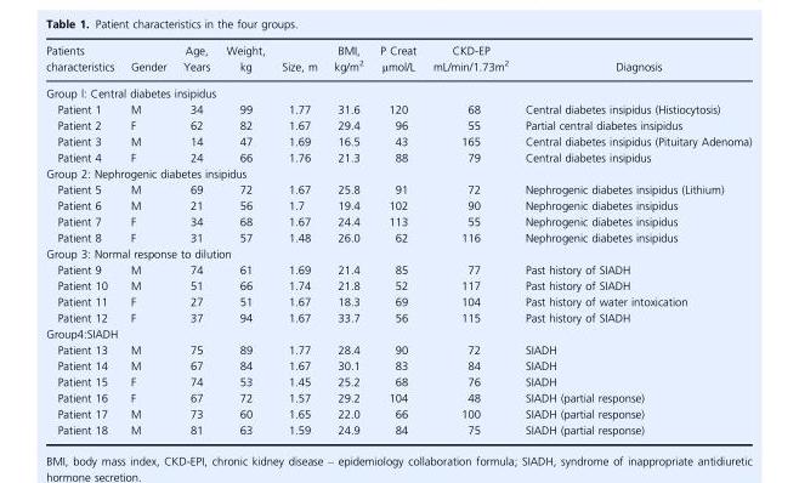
<table><thead><tr><td>Patients characteristics</td><td>Gender</td><td>Age, Years</td><td>Weight, kg</td><td>Size, m</td><td>BMI, kg/m<sup>2</sup></td><td>P Creat μmol/L</td><td>CKD-EP mL/min/1.73m<sup>2</sup></td><td>Diagnosis</td></tr></thead><tbody><tr><td colspan="9">Group l: Central diabetes insipidus</td></tr><tr><td>Patient 1</td><td>M</td><td>34</td><td>99</td><td>1.77</td><td>31.6</td><td>120</td><td>68</td><td>Central diabetes insipidus (Histiocytosis)</td></tr><tr><td>Patient 2</td><td>F</td><td>62</td><td>82</td><td>1.67</td><td>29.4</td><td>96</td><td>55</td><td>Partial central diabetes insipidus</td></tr><tr><td>Patient 3</td><td>M</td><td>14</td><td>47</td><td>1.69</td><td>16.5</td><td>43</td><td>165</td><td>Central diabetes insipidus (Pituitary Adenoma)</td></tr><tr><td>Patient 4</td><td>F</td><td>24</td><td>66</td><td>1.76</td><td>21.3</td><td>88</td><td>79</td><td>Central diabetes insipidus</td></tr><tr><td colspan="9">Group 2: Nephrogenic diabetes insipidus</td></tr><tr><td>Patient 5</td><td>M</td><td>69</td><td>72</td><td>1.67</td><td>25.8</td><td>91</td><td>72</td><td>Nephrogenic diabetes insipidus (Lithium)</td></tr><tr><td>Patient 6</td><td>M</td><td>21</td><td>56</td><td>1.7</td><td>19.4</td><td>102</td><td>90</td><td>Nephrogenic diabetes insipidus</td></tr><tr><td>Patient 7</td><td>F</td><td>34</td><td>68</td><td>1.67</td><td>24.4</td><td>113</td><td>55</td><td>Nephrogenic diabetes insipidus</td></tr><tr><td>Patient 8</td><td>F</td><td>31</td><td>57</td><td>1.48</td><td>26.0</td><td>62</td><td>116</td><td>Nephrogenic diabetes insipidus</td></tr><tr><td colspan="9">Group 3: Normal response to dilution</td></tr><tr><td>Patient 9</td><td>M</td><td>74</td><td>61</td><td>1.69</td><td>21.4</td><td>85</td><td>77</td><td>Past history of SIADH</td></tr><tr><td>Patient 10</td><td>M</td><td>51</td><td>66</td><td>1.74</td><td>21.8</td><td>52</td><td>117</td><td>Past history of SIADH</td></tr><tr><td>Patient 11</td><td>F</td><td>27</td><td>51</td><td>1.67</td><td>18.3</td><td>69</td><td>104</td><td>Past history of water intoxication</td></tr><tr><td>Patient 12</td><td>F</td><td>37</td><td>94</td><td>1.67</td><td>33.7</td><td>56</td><td>115</td><td>Past history of SIADH</td></tr><tr><td colspan="9">Group4:SIADH</td></tr><tr><td>Patient 13</td><td>M</td><td>75</td><td>89</td><td>1.77</td><td>28.4</td><td>90</td><td>72</td><td>SIADH</td></tr><tr><td>Patient 14</td><td>M</td><td>67</td><td>84</td><td>1.67</td><td>30.1</td><td>83</td><td>84</td><td>SIADH</td></tr><tr><td>Patient 15</td><td>F</td><td>74</td><td>53</td><td>1.45</td><td>25.2</td><td>68</td><td>76</td><td>SIADH</td></tr><tr><td>Patient 16</td><td>F</td><td>67</td><td>72</td><td>1.57</td><td>29.2</td><td>104</td><td>48</td><td>SIADH (partial response)</td></tr><tr><td>Patient 17</td><td>M</td><td>73</td><td>60</td><td>1.65</td><td>22.0</td><td>66</td><td>100</td><td>SIADH (partial response)</td></tr><tr><td>Patient 18</td><td>M</td><td>81</td><td>63</td><td>1.59</td><td>24.9</td><td>84</td><td>75</td><td>SIADH (partial response)</td></tr></tbody></table>